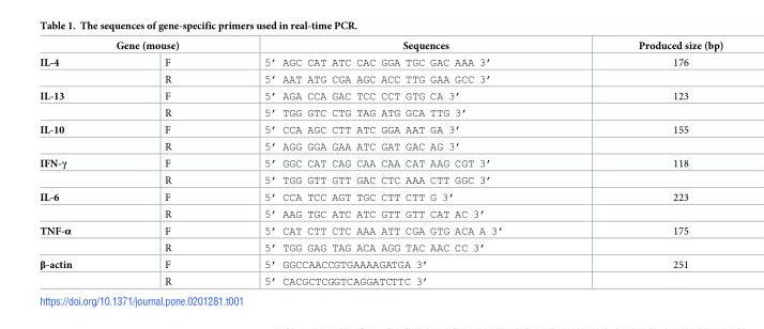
<table><thead><tr><td colspan="2">Gene (mouse)</td><td rowspan="2">Sequences 5’ AGC CAT ATC CAC GGA TGC GAC AAA 3’</td><td rowspan="2">Produced size (bp) 176</td></tr><tr><td>IL-4</td><td>F</td></tr></thead><tbody><tr><td></td><td>R</td><td>5’ AAT ATG CGA AGC ACC TTG GAA GCC 3’</td><td></td></tr><tr><td rowspan="2">IL-13</td><td>F</td><td>5’ AGA CCA GAC TCC CCT GTG CA 3’</td><td>123</td></tr><tr><td>R</td><td>5’ TGG GTC CTG TAG ATG GCA TTG 3’</td><td></td></tr><tr><td rowspan="2">IL-10</td><td>F</td><td>5’ CCA AGC CTT ATC GGA AAT GA 3’</td><td>155</td></tr><tr><td>R</td><td>5’ AGG GGA GAA ATC GAT GAC AG 3’</td><td></td></tr><tr><td rowspan="2">IFN-γ</td><td>F</td><td>5’ GGC CAT CAG CAA CAA CAT AAG CGT 3’</td><td>118</td></tr><tr><td>R</td><td>5’ TGG GTT GTT GAC CTC AAA CTT GGC 3’</td><td></td></tr><tr><td rowspan="2">IL-6</td><td>F</td><td>5’ CCA TCC AGT TGC CTT CTT G 3’</td><td>223</td></tr><tr><td>R</td><td>5’ AAG TGC ATC ATC GTT GTT CAT AC 3’</td><td></td></tr><tr><td rowspan="2">TNF-α</td><td>F</td><td>5’ CAT CTT CTC AAA ATT CGA GTG ACA A 3’</td><td>175</td></tr><tr><td>R</td><td>5’ TGG GAG TAG ACA AGG TAC AAC CC 3’</td><td></td></tr><tr><td rowspan="2">β-actin</td><td>F</td><td>5’ GGCCAACCGTGAAAAGATGA 3’</td><td>251</td></tr><tr><td>R</td><td>5’ CACGCTCGGTCAGGATCTTC 3’</td><td></td></tr></tbody></table>